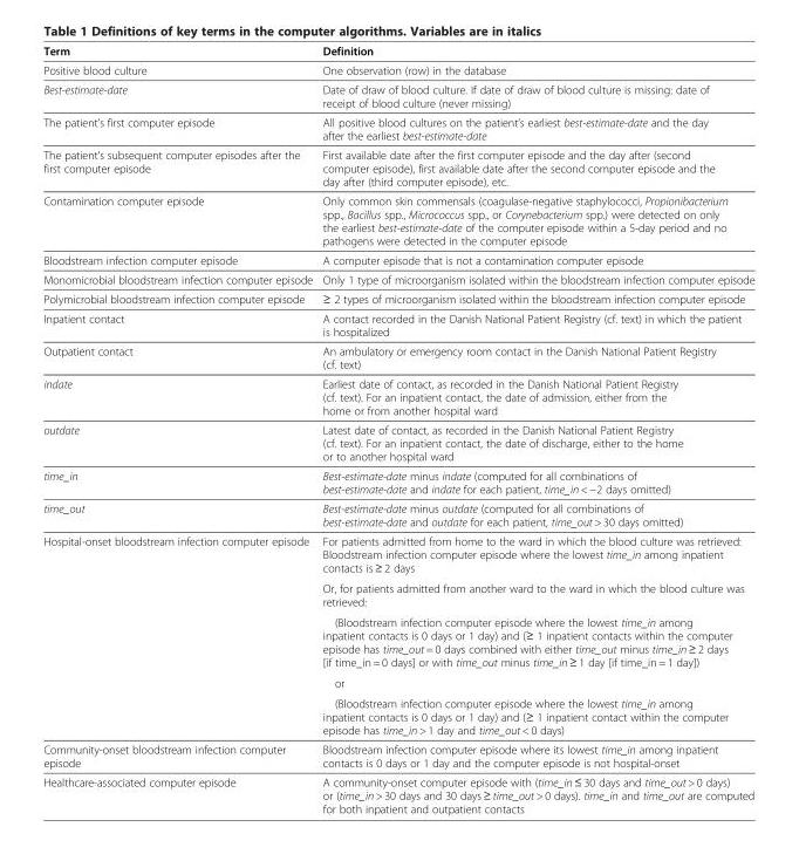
<table><thead><tr><td>Term</td><td>Definition</td></tr></thead><tbody><tr><td>Positive blood culture</td><td>One observation (row) in the database</td></tr><tr><td>Best-estimate-date</td><td>Date of draw of blood culture. If date of draw of blood culture is missing: date of receipt of blood culture (never missing)</td></tr><tr><td>The patient’s first computer episode</td><td>All positive blood cultures on the patient’s earliest best-estimate-date and the day after the earliest best-estimate-date</td></tr><tr><td>The patient’s subsequent computer episodes after the first computer episode</td><td>First available date after the first computer episode and the day after (second computer episode), first available date after the second computer episode and the day after (third computer episode), etc.</td></tr><tr><td>Contamination computer episode</td><td>Only common skin commensals (coagulase-negative staphylococci, Propionibacterium spp., Bacillus spp., Micrococcus spp., or Corynebacterium spp.) were detected on only the earliest best-estimate-date of the computer episode within a 5-day period and no pathogens were detected in the computer episode</td></tr><tr><td>Bloodstream infection computer episode</td><td>A computer episode that is not a contamination computer episode</td></tr><tr><td>Monomicrobial bloodstream infection computer episode</td><td>Only 1 type of microorganism isolated within the bloodstream infection computer episode</td></tr><tr><td>Polymicrobial bloodstream infection computer episode</td><td>≥ 2 types of microorganism isolated within the bloodstream infection computer episode</td></tr><tr><td>Inpatient contact</td><td>A contact recorded in the Danish National Patient Registry (cf. text) in which the patient is hospitalized</td></tr><tr><td>Outpatient contact</td><td>An ambulatory or emergency room contact in the Danish National Patient Registry (cf. text)</td></tr><tr><td>indate</td><td>Earliest date of contact, as recorded in the Danish National Patient Registry (cf. text). For an inpatient contact, the date of admission, either from the home or from another hospital ward</td></tr><tr><td>outdate</td><td>Latest date of contact, as recorded in the Danish National Patient Registry (cf. text). For an inpatient contact, the date of discharge, either to the home or to another hospital ward</td></tr><tr><td>time_in</td><td>Best-estimate-date minus indate (computed for all combinations of best-estimate-date and indate for each patient, time_in &lt; −2 days omitted)</td></tr><tr><td>time_out</td><td>Best-estimate-date minus outdate (computed for all combinations of best-estimate-date and outdate for each patient, time_out &gt; 30 days omitted)</td></tr><tr><td rowspan="5">Hospital-onset bloodstream infection computer episode</td><td>For patients admitted from home to the ward in which the blood culture was retrieved: Bloodstream infection computer episode where the lowest time_in among inpatient contacts is ≥ 2 days</td></tr><tr><td>Or, for patients admitted from another ward to the ward in which the blood culture was retrieved:</td></tr><tr><td>(Bloodstream infection computer episode where the lowest time_in among inpatient contacts is 0 days or 1 day) and (≥ 1 inpatient contacts within the computer episode has time_out = 0 days combined with either time_out minus time_in ≥ 2 days [if time_in = 0 days] or with time_out minus time_in ≥ 1 day [if time_in = 1 day])</td></tr><tr><td>or</td></tr><tr><td>(Bloodstream infection computer episode where the lowest time_in among inpatient contacts is 0 days or 1 day) and (≥ 1 inpatient contact within the computer episode has time_in &gt; 1 day and time_out &lt; 0 days)</td></tr><tr><td>Community-onset bloodstream infection computer episode</td><td>Bloodstream infection computer episode where its lowest time_in among inpatient contacts is 0 days or 1 day and the computer episode is not hospital-onset</td></tr><tr><td>Healthcare-associated computer episode</td><td>A community-onset computer episode with (time_in ≤ 30 days and time_out &gt; 0 days) or (time_in &gt; 30 days and 30 days ≥ time_out &gt; 0 days). time_in and time_out are computed for both inpatient and outpatient contacts</td></tr></tbody></table>